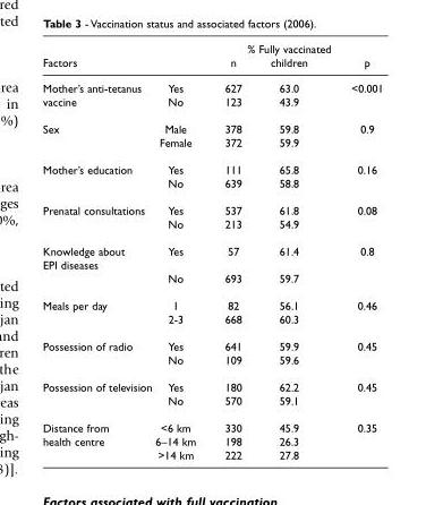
<table><thead><tr><td rowspan="2">Factors</td><td rowspan="2"></td><td colspan="3">% Fully vaccinated</td></tr><tr><td>n</td><td>children</td><td>p</td></tr></thead><tbody><tr><td>Mother’s anti-tetanus</td><td>Yes</td><td>627</td><td>63.0</td><td>&lt;0.001</td></tr><tr><td>vaccine</td><td>No</td><td>123</td><td>43.9</td><td></td></tr><tr><td rowspan="2">Sex</td><td>Male</td><td>378</td><td>59.8</td><td>0.9</td></tr><tr><td>Female</td><td>372</td><td>59.9</td><td></td></tr><tr><td rowspan="2">Mother’s education</td><td>Yes</td><td>111</td><td>65.8</td><td>0.16</td></tr><tr><td>No</td><td>639</td><td>58.8</td><td></td></tr><tr><td rowspan="2">Prenatal consultations</td><td>Yes</td><td>537</td><td>61.8</td><td>0.08</td></tr><tr><td>No</td><td>213</td><td>54.9</td><td></td></tr><tr><td rowspan="2">Knowledge about EPI diseases</td><td>Yes</td><td>57</td><td>61.4</td><td>0.8</td></tr><tr><td>No</td><td>693</td><td>59.7</td><td></td></tr><tr><td rowspan="2">Meals per day</td><td>1</td><td>82</td><td>56.1</td><td>0.46</td></tr><tr><td>2-3</td><td>668</td><td>60.3</td><td></td></tr><tr><td rowspan="2">Possession of radio</td><td>Yes</td><td>641</td><td>59.9</td><td>0.45</td></tr><tr><td>No</td><td>109</td><td>59.6</td><td></td></tr><tr><td rowspan="2">Possession of television</td><td>Yes</td><td>180</td><td>62.2</td><td>0.45</td></tr><tr><td>No</td><td>570</td><td>59.1</td><td></td></tr><tr><td rowspan="3">Distance from health centre</td><td>&lt;6 km</td><td>330</td><td>45.9</td><td>0.35</td></tr><tr><td>6–14 km</td><td>198</td><td>26.3</td><td></td></tr><tr><td>&gt;14 km</td><td>222</td><td>27.8</td><td></td></tr></tbody></table>